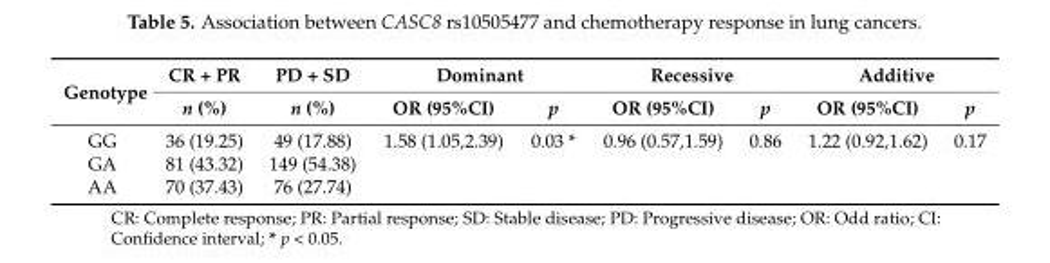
<table><thead><tr><td rowspan="2">Genotype</td><td rowspan="2">CR + PR n (%)</td><td rowspan="2">PD + SD n (%)</td><td colspan="2">Dominant</td><td colspan="2">Recessive</td><td colspan="2">Additive</td></tr><tr><td>OR (95%CI)</td><td>p</td><td>OR (95%CI)</td><td>p</td><td>OR (95%CI)</td><td>p</td></tr></thead><tbody><tr><td>GG</td><td>36 (19.25)</td><td>49 (17.88)</td><td>1.58 (1.05,2.39)</td><td>0.03 *</td><td>0.96 (0.57,1.59)</td><td>0.86</td><td>1.22 (0.92,1.62)</td><td>0.17</td></tr><tr><td>GA</td><td>81 (43.32)</td><td>149 (54.38)</td><td></td><td></td><td></td><td></td><td></td><td></td></tr><tr><td>AA</td><td>70 (37.43)</td><td>76 (27.74)</td><td></td><td></td><td></td><td></td><td></td><td></td></tr></tbody></table>